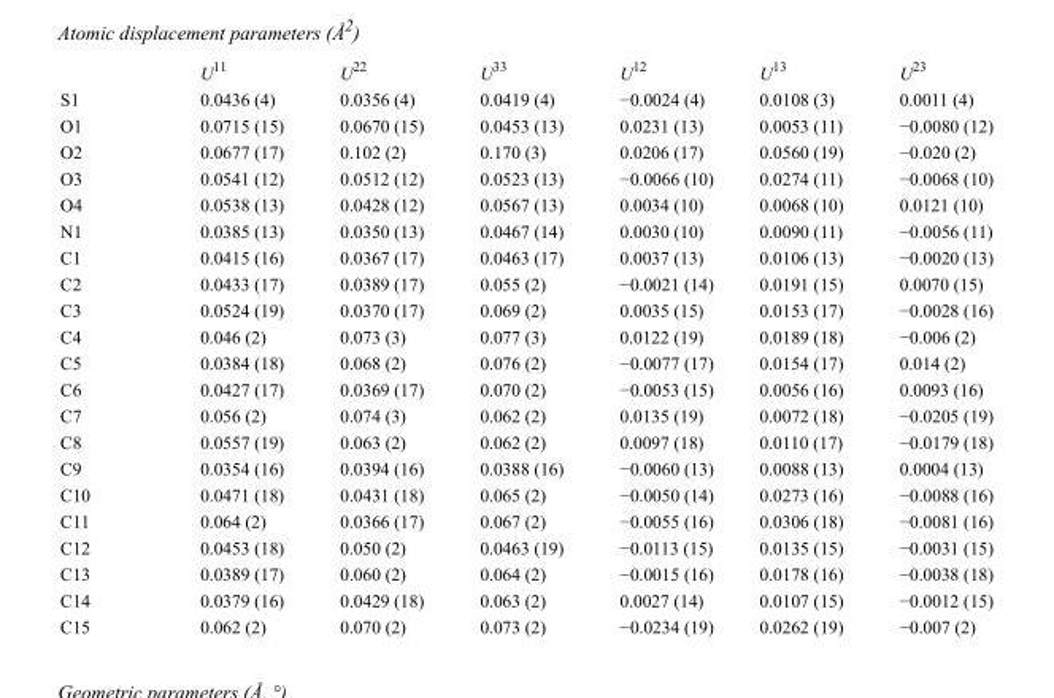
<table><thead><tr><td></td><td>U<sup>11</sup></td><td>U<sup>22</sup></td><td>U<sup>33</sup></td><td>U<sup>12</sup></td><td>U<sup>13</sup></td><td>U<sup>23</sup></td></tr></thead><tbody><tr><td>S1</td><td>0.0436 (4)</td><td>0.0356 (4)</td><td>0.0419 (4)</td><td>−0.0024 (4)</td><td>0.0108 (3)</td><td>0.0011 (4)</td></tr><tr><td>O1</td><td>0.0715 (15)</td><td>0.0670 (15)</td><td>0.0453 (13)</td><td>0.0231 (13)</td><td>0.0053 (11)</td><td>−0.0080 (12)</td></tr><tr><td>O2</td><td>0.0677 (17)</td><td>0.102 (2)</td><td>0.170 (3)</td><td>0.0206 (17)</td><td>0.0560 (19)</td><td>−0.020 (2)</td></tr><tr><td>O3</td><td>0.0541 (12)</td><td>0.0512 (12)</td><td>0.0523 (13)</td><td>−0.0066 (10)</td><td>0.0274 (11)</td><td>−0.0068 (10)</td></tr><tr><td>O4</td><td>0.0538 (13)</td><td>0.0428 (12)</td><td>0.0567 (13)</td><td>0.0034 (10)</td><td>0.0068 (10)</td><td>0.0121 (10)</td></tr><tr><td>N1</td><td>0.0385 (13)</td><td>0.0350 (13)</td><td>0.0467 (14)</td><td>0.0030 (10)</td><td>0.0090 (11)</td><td>−0.0056 (11)</td></tr><tr><td>C1</td><td>0.0415 (16)</td><td>0.0367 (17)</td><td>0.0463 (17)</td><td>0.0037 (13)</td><td>0.0106 (13)</td><td>−0.0020 (13)</td></tr><tr><td>C2</td><td>0.0433 (17)</td><td>0.0389 (17)</td><td>0.055 (2)</td><td>−0.0021 (14)</td><td>0.0191 (15)</td><td>0.0070 (15)</td></tr><tr><td>C3</td><td>0.0524 (19)</td><td>0.0370 (17)</td><td>0.069 (2)</td><td>0.0035 (15)</td><td>0.0153 (17)</td><td>−0.0028 (16)</td></tr><tr><td>C4</td><td>0.046 (2)</td><td>0.073 (3)</td><td>0.077 (3)</td><td>0.0122 (19)</td><td>0.0189 (18)</td><td>−0.006 (2)</td></tr><tr><td>C5</td><td>0.0384 (18)</td><td>0.068 (2)</td><td>0.076 (2)</td><td>−0.0077 (17)</td><td>0.0154 (17)</td><td>0.014 (2)</td></tr><tr><td>C6</td><td>0.0427 (17)</td><td>0.0369 (17)</td><td>0.070 (2)</td><td>−0.0053 (15)</td><td>0.0056 (16)</td><td>0.0093 (16)</td></tr><tr><td>C7</td><td>0.056 (2)</td><td>0.074 (3)</td><td>0.062 (2)</td><td>0.0135 (19)</td><td>0.0072 (18)</td><td>−0.0205 (19)</td></tr><tr><td>C8</td><td>0.0557 (19)</td><td>0.063 (2)</td><td>0.062 (2)</td><td>0.0097 (18)</td><td>0.0110 (17)</td><td>−0.0179 (18)</td></tr><tr><td>C9</td><td>0.0354 (16)</td><td>0.0394 (16)</td><td>0.0388 (16)</td><td>−0.0060 (13)</td><td>0.0088 (13)</td><td>0.0004 (13)</td></tr><tr><td>C10</td><td>0.0471 (18)</td><td>0.0431 (18)</td><td>0.065 (2)</td><td>−0.0050 (14)</td><td>0.0273 (16)</td><td>−0.0088 (16)</td></tr><tr><td>C11</td><td>0.064 (2)</td><td>0.0366 (17)</td><td>0.067 (2)</td><td>−0.0055 (16)</td><td>0.0306 (18)</td><td>−0.0081 (16)</td></tr><tr><td>C12</td><td>0.0453 (18)</td><td>0.050 (2)</td><td>0.0463 (19)</td><td>−0.0113 (15)</td><td>0.0135 (15)</td><td>−0.0031 (15)</td></tr><tr><td>C13</td><td>0.0389 (17)</td><td>0.060 (2)</td><td>0.064 (2)</td><td>−0.0015 (16)</td><td>0.0178 (16)</td><td>−0.0038 (18)</td></tr><tr><td>C14</td><td>0.0379 (16)</td><td>0.0429 (18)</td><td>0.063 (2)</td><td>0.0027 (14)</td><td>0.0107 (15)</td><td>−0.0012 (15)</td></tr><tr><td>C15</td><td>0.062 (2)</td><td>0.070 (2)</td><td>0.073 (2)</td><td>−0.0234 (19)</td><td>0.0262 (19)</td><td>−0.007 (2)</td></tr></tbody></table>